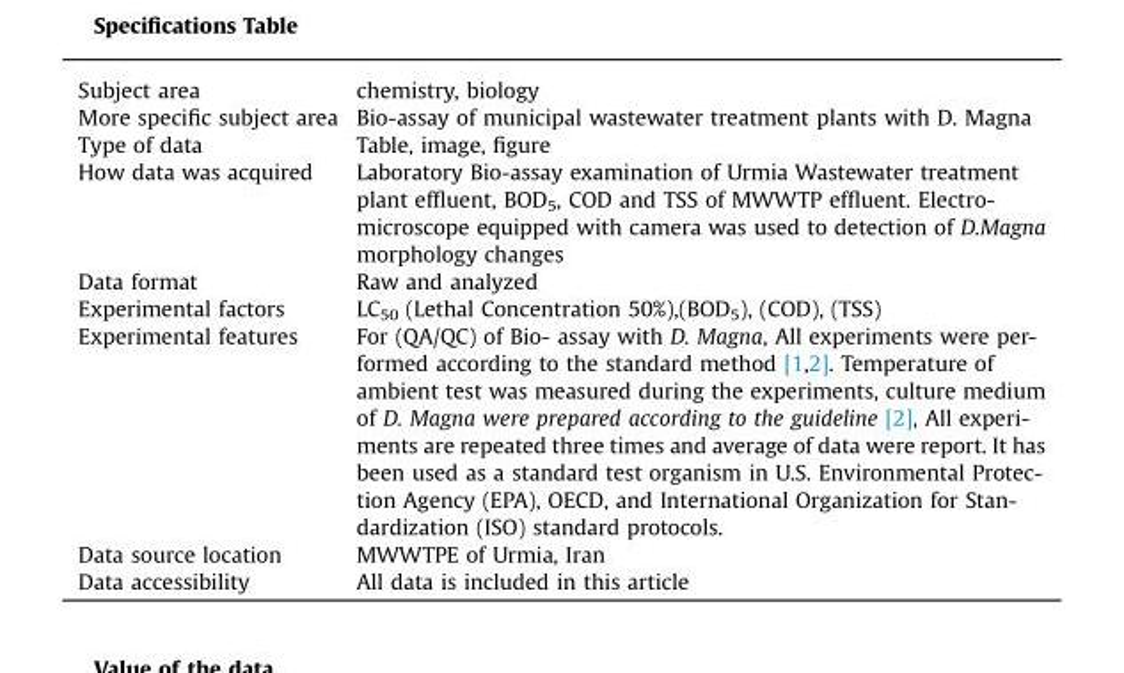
<table><tbody><tr><td>Subject area</td><td>chemistry, biology</td></tr><tr><td>More specific subject area</td><td>Bio-assay of municipal wastewater treatment plants with D. Magna</td></tr><tr><td>Type of data</td><td>Table, image, figure</td></tr><tr><td>How data was acquired</td><td>Laboratory Bio-assay examination of Urmia Wastewater treatment plant effluent, BOD<sub>5</sub>, COD and TSS of MWWTP effluent. Electro- microscope equipped with camera was used to detection of D.Magna morphology changes</td></tr><tr><td>Data format</td><td>Raw and analyzed</td></tr><tr><td>Experimental factors</td><td>LC<sub>50</sub> (Lethal Concentration 50%),(BOD<sub>5</sub>), (COD), (TSS)</td></tr><tr><td>Experimental features</td><td>For (QA/QC) of Bio- assay with D. Magna, All experiments were per- formed according to the standard method [1,2]. Temperature of ambient test was measured during the experiments, culture medium of D. Magna were prepared according to the guideline [2], All experi- ments are repeated three times and average of data were report. It has been used as a standard test organism in U.S. Environmental Protec- tion Agency (EPA), OECD, and International Organization for Stan- dardization (ISO) standard protocols.</td></tr><tr><td>Data source location</td><td>MWWTPE of Urmia, Iran</td></tr><tr><td>Data accessibility</td><td>All data is included in this article</td></tr></tbody></table>